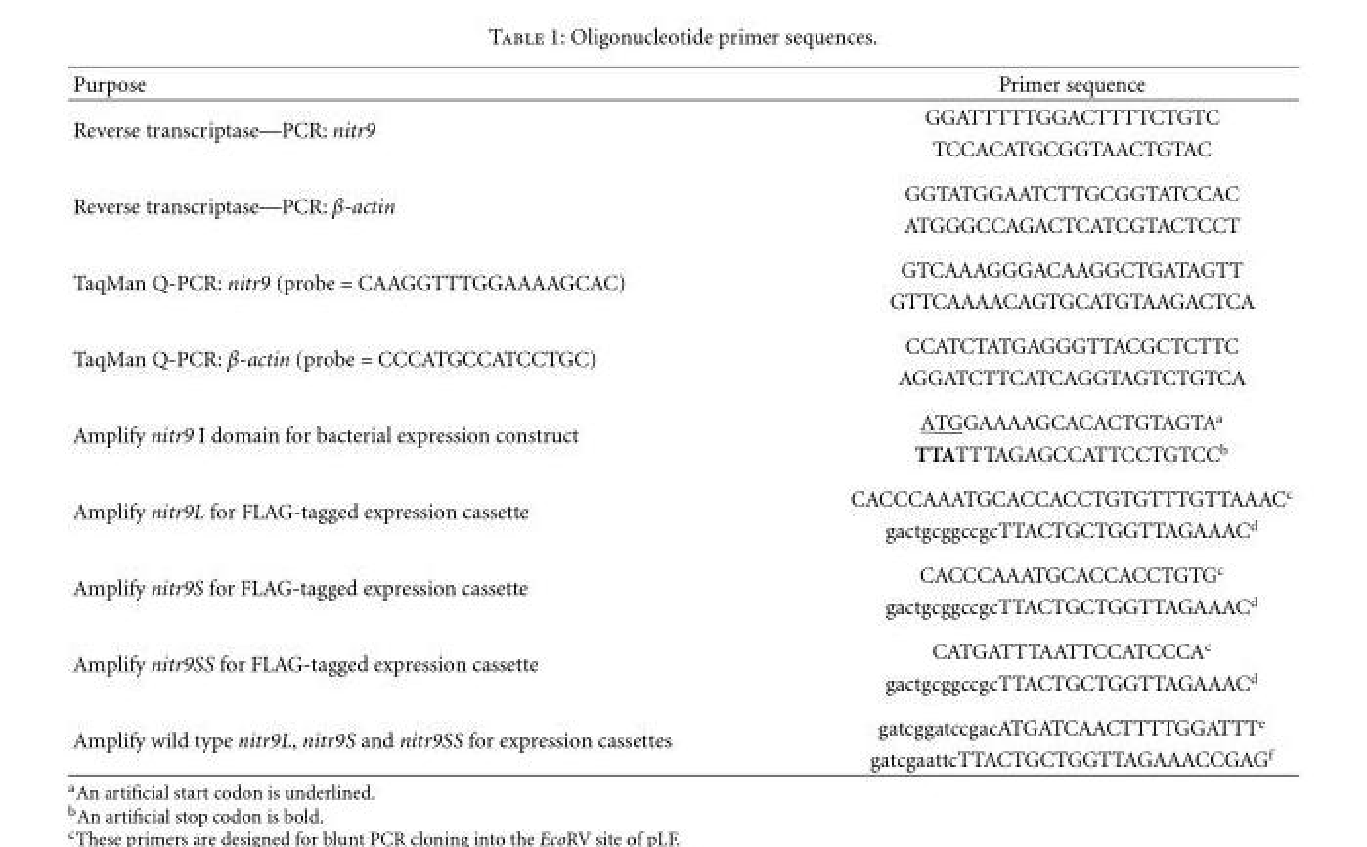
<table><thead><tr><td>Purpose</td><td>Primer sequence</td></tr></thead><tbody><tr><td rowspan="2">Reverse transcriptase—PCR: nitr9</td><td>GGATTTTTGGACTTTTCTGTC</td></tr><tr><td>TCCACATGCGGTAACTGTAC</td></tr><tr><td rowspan="2">Reverse transcriptase—PCR: β-actin</td><td>GGTATGGAATCTTGCGGTATCCAC</td></tr><tr><td>ATGGGCCAGACTCATCGTACTCCT</td></tr><tr><td rowspan="2">TaqMan Q-PCR: nitr9 (probe = CAAGGTTTGGAAAAGCAC)</td><td>GTCAAAGGGACAAGGCTGATAGTT</td></tr><tr><td>GTTCAAAACAGTGCATGTAAGACTCA</td></tr><tr><td rowspan="2">TaqMan Q-PCR: β-actin (probe = CCCATGCCATCCTGC)</td><td>CCATCTATGAGGGTTACGCTCTTC</td></tr><tr><td>AGGATCTTCATCAGGTAGTCTGTCA</td></tr><tr><td rowspan="2">Amplify nitr9 I domain for bacterial expression construct</td><td>ATGGAAAAGCACACTGTAGTA<sup>a</sup></td></tr><tr><td>TTATTTAGAGCCATTCCTGTCC<sup>b</sup></td></tr><tr><td rowspan="2">Amplify nitr9L for FLAG-tagged expression cassette</td><td>CACCCAAATGCACCACCTGTGTTTGTTAAAC<sup>c</sup></td></tr><tr><td>gactgcggccgcTTACTGCTGGTTAGAAAC<sup>d</sup></td></tr><tr><td rowspan="2">Amplify nitr9S for FLAG-tagged expression cassette</td><td>CACCCAAATGCACCACCTGTG<sup>c</sup></td></tr><tr><td>gactgcggccgcTTACTGCTGGTTAGAAAC<sup>d</sup></td></tr><tr><td rowspan="2">Amplify nitr9SS for FLAG-tagged expression cassette</td><td>CATGATTTAATTCCATCCCA<sup>c</sup></td></tr><tr><td>gactgcggccgcTTACTGCTGGTTAGAAAC<sup>d</sup></td></tr><tr><td rowspan="2">Amplify wild type nitr9L, nitr9S and nitr9SS for expression cassettes</td><td>gatcggatccgacATGATCAACTTTTGGATTT<sup>e</sup></td></tr><tr><td>gatcgaattcTTACTGCTGGTTAGAAACCGAG<sup>f</sup></td></tr></tbody></table>